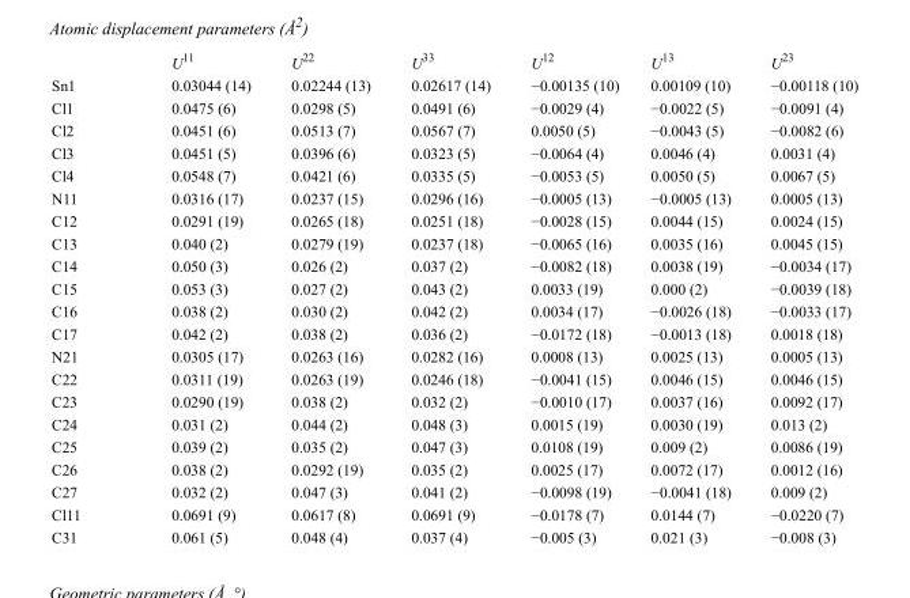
<table><thead><tr><td></td><td>U<sup>11</sup></td><td>U<sup>22</sup></td><td>U<sup>33</sup></td><td>U<sup>12</sup></td><td>U<sup>13</sup></td><td>U<sup>23</sup></td></tr></thead><tbody><tr><td>Sn1</td><td>0.03044 (14)</td><td>0.02244 (13)</td><td>0.02617 (14)</td><td>−0.00135 (10)</td><td>0.00109 (10)</td><td>−0.00118 (10)</td></tr><tr><td>Cl1</td><td>0.0475 (6)</td><td>0.0298 (5)</td><td>0.0491 (6)</td><td>−0.0029 (4)</td><td>−0.0022 (5)</td><td>−0.0091 (4)</td></tr><tr><td>Cl2</td><td>0.0451 (6)</td><td>0.0513 (7)</td><td>0.0567 (7)</td><td>0.0050 (5)</td><td>−0.0043 (5)</td><td>−0.0082 (6)</td></tr><tr><td>Cl3</td><td>0.0451 (5)</td><td>0.0396 (6)</td><td>0.0323 (5)</td><td>−0.0064 (4)</td><td>0.0046 (4)</td><td>0.0031 (4)</td></tr><tr><td>Cl4</td><td>0.0548 (7)</td><td>0.0421 (6)</td><td>0.0335 (5)</td><td>−0.0053 (5)</td><td>0.0050 (5)</td><td>0.0067 (5)</td></tr><tr><td>N11</td><td>0.0316 (17)</td><td>0.0237 (15)</td><td>0.0296 (16)</td><td>−0.0005 (13)</td><td>−0.0005 (13)</td><td>0.0005 (13)</td></tr><tr><td>C12</td><td>0.0291 (19)</td><td>0.0265 (18)</td><td>0.0251 (18)</td><td>−0.0028 (15)</td><td>0.0044 (15)</td><td>0.0024 (15)</td></tr><tr><td>C13</td><td>0.040 (2)</td><td>0.0279 (19)</td><td>0.0237 (18)</td><td>−0.0065 (16)</td><td>0.0035 (16)</td><td>0.0045 (15)</td></tr><tr><td>C14</td><td>0.050 (3)</td><td>0.026 (2)</td><td>0.037 (2)</td><td>−0.0082 (18)</td><td>0.0038 (19)</td><td>−0.0034 (17)</td></tr><tr><td>C15</td><td>0.053 (3)</td><td>0.027 (2)</td><td>0.043 (2)</td><td>0.0033 (19)</td><td>0.000 (2)</td><td>−0.0039 (18)</td></tr><tr><td>C16</td><td>0.038 (2)</td><td>0.030 (2)</td><td>0.042 (2)</td><td>0.0034 (17)</td><td>−0.0026 (18)</td><td>−0.0033 (17)</td></tr><tr><td>C17</td><td>0.042 (2)</td><td>0.038 (2)</td><td>0.036 (2)</td><td>−0.0172 (18)</td><td>−0.0013 (18)</td><td>0.0018 (18)</td></tr><tr><td>N21</td><td>0.0305 (17)</td><td>0.0263 (16)</td><td>0.0282 (16)</td><td>0.0008 (13)</td><td>0.0025 (13)</td><td>0.0005 (13)</td></tr><tr><td>C22</td><td>0.0311 (19)</td><td>0.0263 (19)</td><td>0.0246 (18)</td><td>−0.0041 (15)</td><td>0.0046 (15)</td><td>0.0046 (15)</td></tr><tr><td>C23</td><td>0.0290 (19)</td><td>0.038 (2)</td><td>0.032 (2)</td><td>−0.0010 (17)</td><td>0.0037 (16)</td><td>0.0092 (17)</td></tr><tr><td>C24</td><td>0.031 (2)</td><td>0.044 (2)</td><td>0.048 (3)</td><td>0.0015 (19)</td><td>0.0030 (19)</td><td>0.013 (2)</td></tr><tr><td>C25</td><td>0.039 (2)</td><td>0.035 (2)</td><td>0.047 (3)</td><td>0.0108 (19)</td><td>0.009 (2)</td><td>0.0086 (19)</td></tr><tr><td>C26</td><td>0.038 (2)</td><td>0.0292 (19)</td><td>0.035 (2)</td><td>0.0025 (17)</td><td>0.0072 (17)</td><td>0.0012 (16)</td></tr><tr><td>C27</td><td>0.032 (2)</td><td>0.047 (3)</td><td>0.041 (2)</td><td>−0.0098 (19)</td><td>−0.0041 (18)</td><td>0.009 (2)</td></tr><tr><td>Cl11</td><td>0.0691 (9)</td><td>0.0617 (8)</td><td>0.0691 (9)</td><td>−0.0178 (7)</td><td>0.0144 (7)</td><td>−0.0220 (7)</td></tr><tr><td>C31</td><td>0.061 (5)</td><td>0.048 (4)</td><td>0.037 (4)</td><td>−0.005 (3)</td><td>0.021 (3)</td><td>−0.008 (3)</td></tr></tbody></table>